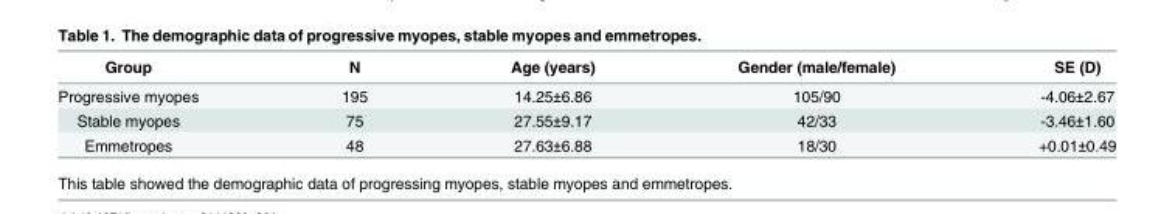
<table><thead><tr><td>Group</td><td>N</td><td>Age (years)</td><td>Gender (male/female)</td><td>SE (D)</td></tr></thead><tbody><tr><td>Progressive myopes</td><td>195</td><td>14.25±6.86</td><td>105/90</td><td>-4.06±2.67</td></tr><tr><td>Stable myopes</td><td>75</td><td>27.55±9.17</td><td>42/33</td><td>-3.46±1.60</td></tr><tr><td>Emmetropes</td><td>48</td><td>27.63±6.88</td><td>18/30</td><td>+0.01±0.49</td></tr></tbody></table>